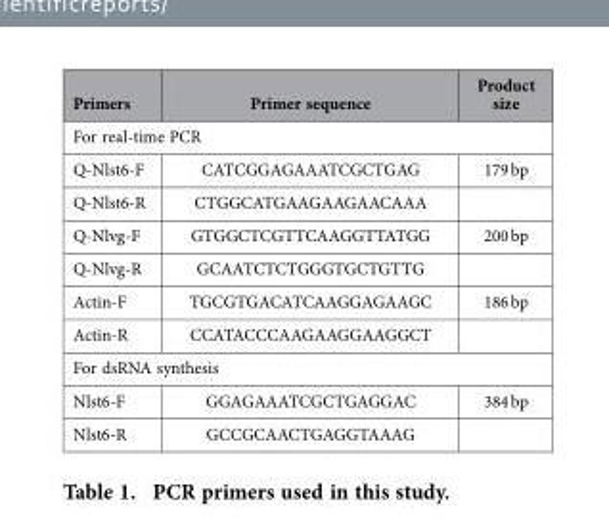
<table><thead><tr><td>Primers</td><td>Primer sequence</td><td>Product size</td></tr></thead><tbody><tr><td colspan="3">For real-time PCR</td></tr><tr><td>Q-Nlst6-F</td><td>CATCGGAGAAATCGCTGAG</td><td>179 bp</td></tr><tr><td>Q-Nlst6-R</td><td>CTGGCATGAAGAAGAACAAA</td><td></td></tr><tr><td>Q-Nlvg-F</td><td>GTGGCTCGTTCAAGGTTATGG</td><td>200 bp</td></tr><tr><td>Q-Nlvg-R</td><td>GCAATCTCTGGGTGCTGTTG</td><td></td></tr><tr><td>Actin-F</td><td>TGCGTGACATCAAGGAGAAGC</td><td>186 bp</td></tr><tr><td>Actin-R</td><td>CCATACCCAAGAAGGAAGGCT</td><td></td></tr><tr><td colspan="3">For dsRNA synthesis</td></tr><tr><td>Nlst6-F</td><td>GGAGAAATCGCTGAGGAC</td><td>384 bp</td></tr><tr><td>Nlst6-R</td><td>GCCGCAACTGAGGTAAAG</td><td></td></tr></tbody></table>